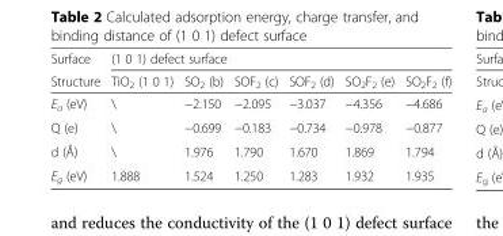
<table><thead><tr><td rowspan="2">Surface Structure</td><td colspan="6">(1 0 1) defect surface</td></tr><tr><td>TiO<sub>2</sub> (1 0 1)</td><td>SO<sub>2</sub> (b)</td><td>SOF<sub>2</sub> (c)</td><td>SOF<sub>2</sub> (d)</td><td>SO<sub>2</sub>F<sub>2</sub> (e)</td><td>SO<sub>2</sub>F<sub>2</sub> (f)</td></tr></thead><tbody><tr><td>E<sub>a</sub> (eV)</td><td>\</td><td>−2.150</td><td>−2.095</td><td>−3.037</td><td>−4.356</td><td>−4.686</td></tr><tr><td>Q (e)</td><td>\</td><td>−0.699</td><td>−0.183</td><td>−0.734</td><td>−0.978</td><td>−0.877</td></tr><tr><td>d (Å)</td><td>\</td><td>1.976</td><td>1.790</td><td>1.670</td><td>1.869</td><td>1.794</td></tr><tr><td>E<sub>g</sub> (eV)</td><td>1.888</td><td>1.524</td><td>1.250</td><td>1.283</td><td>1.932</td><td>1.935</td></tr></tbody></table>